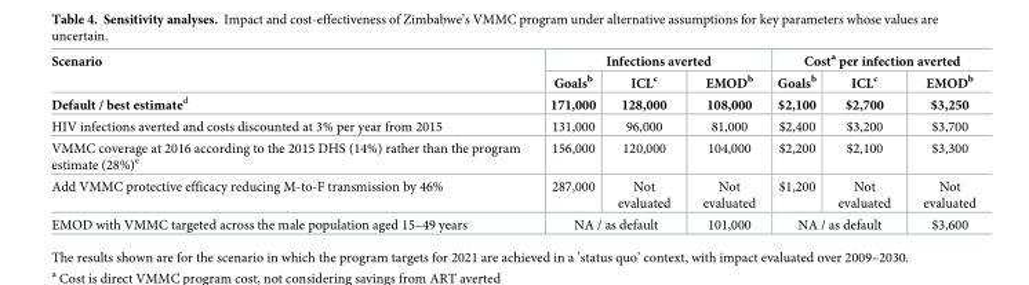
<table><thead><tr><td rowspan="2">Scenario</td><td colspan="3">Infections averted</td><td colspan="3">Cost<sup>a</sup> per infection averted</td></tr><tr><td>Goals<sup>b</sup></td><td>ICL<sup>c</sup></td><td>EMOD<sup>b</sup></td><td>Goals<sup>b</sup></td><td>ICL<sup>c</sup></td><td>EMOD<sup>b</sup></td></tr></thead><tbody><tr><td>Default / best estimate<sup>d</sup></td><td>171,000</td><td>128,000</td><td>108,000</td><td>$2,100</td><td>$2,700</td><td>$3,250</td></tr><tr><td>HIV infections averted and costs discounted at 3% per year from 2015</td><td>131,000</td><td>96,000</td><td>81,000</td><td>$2,400</td><td>$3,200</td><td>$3,700</td></tr><tr><td>VMMC coverage at 2016 according to the 2015 DHS (14%) rather than the program estimate (28%)<sup>e</sup></td><td>156,000</td><td>120,000</td><td>104,000</td><td>$2,200</td><td>$2,100</td><td>$3,300</td></tr><tr><td>Add VMMC protective efficacy reducing M-to-F transmission by 46%</td><td>287,000</td><td>Not evaluated</td><td>Not evaluated</td><td>$1,200</td><td>Not evaluated</td><td>Not evaluated</td></tr><tr><td>EMOD with VMMC targeted across the male population aged 15–49 years</td><td colspan="2">NA / as default</td><td>101,000</td><td colspan="2">NA / as default</td><td>$3,600</td></tr></tbody></table>